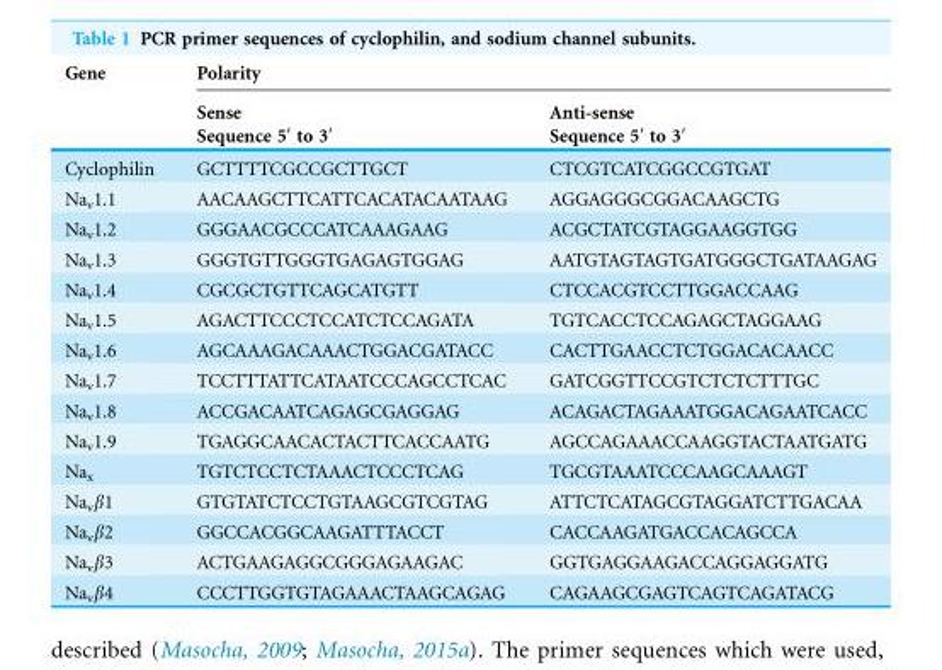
<table><thead><tr><td rowspan="2">Gene</td><td colspan="2">Polarity</td></tr><tr><td>Sense Sequence 5′ to 3′</td><td>Anti-sense Sequence 5′ to 3′</td></tr></thead><tbody><tr><td>Cyclophilin</td><td>GCTTTTCGCCGCTTGCT</td><td>CTCGTCATCGGCCGTGAT</td></tr><tr><td>Na<sub>v</sub>1.1</td><td>AACAAGCTTCATTCACATACAATAAG</td><td>AGGAGGGCGGACAAGCTG</td></tr><tr><td>Na<sub>v</sub>1.2</td><td>GGGAACGCCCATCAAAGAAG</td><td>ACGCTATCGTAGGAAGGTGG</td></tr><tr><td>Na<sub>v</sub>1.3</td><td>GGGTGTTGGGTGAGAGTGGAG</td><td>AATGTAGTAGTGATGGGCTGATAAGAG</td></tr><tr><td>Na<sub>v</sub>1.4</td><td>CGCGCTGTTCAGCATGTT</td><td>CTCCACGTCCTTGGACCAAG</td></tr><tr><td>Na<sub>v</sub>1.5</td><td>AGACTTCCCTCCATCTCCAGATA</td><td>TGTCACCTCCAGAGCTAGGAAG</td></tr><tr><td>Na<sub>v</sub>1.6</td><td>AGCAAAGACAAACTGGACGATACC</td><td>CACTTGAACCTCTGGACACAACC</td></tr><tr><td>Na<sub>v</sub>1.7</td><td>TCCTTTATTCATAATCCCAGCCTCAC</td><td>GATCGGTTCCGTCTCTCTTTGC</td></tr><tr><td>Na<sub>v</sub>1.8</td><td>ACCGACAATCAGAGCGAGGAG</td><td>ACAGACTAGAAATGGACAGAATCACC</td></tr><tr><td>Na<sub>v</sub>1.9</td><td>TGAGGCAACACTACTTCACCAATG</td><td>AGCCAGAAACCAAGGTACTAATGATG</td></tr><tr><td>Na<sub>x</sub></td><td>TGTCTCCTCTAAACTCCCTCAG</td><td>TGCGTAAATCCCAAGCAAAGT</td></tr><tr><td>Na<sub>v</sub>β1</td><td>GTGTATCTCCTGTAAGCGTCGTAG</td><td>ATTCTCATAGCGTAGGATCTTGACAA</td></tr><tr><td>Na<sub>v</sub>β2</td><td>GGCCACGGCAAGATTTACCT</td><td>CACCAAGATGACCACAGCCA</td></tr><tr><td>Na<sub>v</sub>β3</td><td>ACTGAAGAGGCGGGAGAAGAC</td><td>GGTGAGGAAGACCAGGAGGATG</td></tr><tr><td>Na<sub>v</sub>β4</td><td>CCCTTGGTGTAGAAACTAAGCAGAG</td><td>CAGAAGCGAGTCAGTCAGATACG</td></tr></tbody></table>